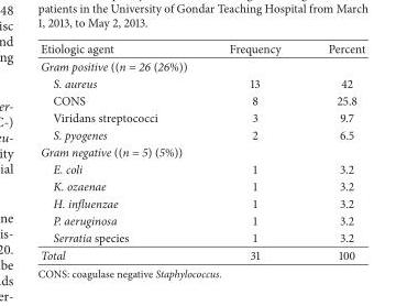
<table><thead><tr><td>Etiologic agent</td><td>Frequency</td><td>Percent</td></tr></thead><tbody><tr><td colspan="3">Gram positive ((n = 26 (26%))</td></tr><tr><td>S. aureus</td><td>13</td><td>42</td></tr><tr><td>CONS</td><td>8</td><td>25.8</td></tr><tr><td>Viridans streptococci</td><td>3</td><td>9.7</td></tr><tr><td>S. pyogenes</td><td>2</td><td>6.5</td></tr><tr><td colspan="3">Gram negative ((n = 5) (5%))</td></tr><tr><td>E. coli</td><td>1</td><td>3.2</td></tr><tr><td>K. ozaenae</td><td>1</td><td>3.2</td></tr><tr><td>H. influenzae</td><td>1</td><td>3.2</td></tr><tr><td>P. aeruginosa</td><td>1</td><td>3.2</td></tr><tr><td>Serratia species</td><td>1</td><td>3.2</td></tr><tr><td>Total</td><td>31</td><td>100</td></tr></tbody></table>